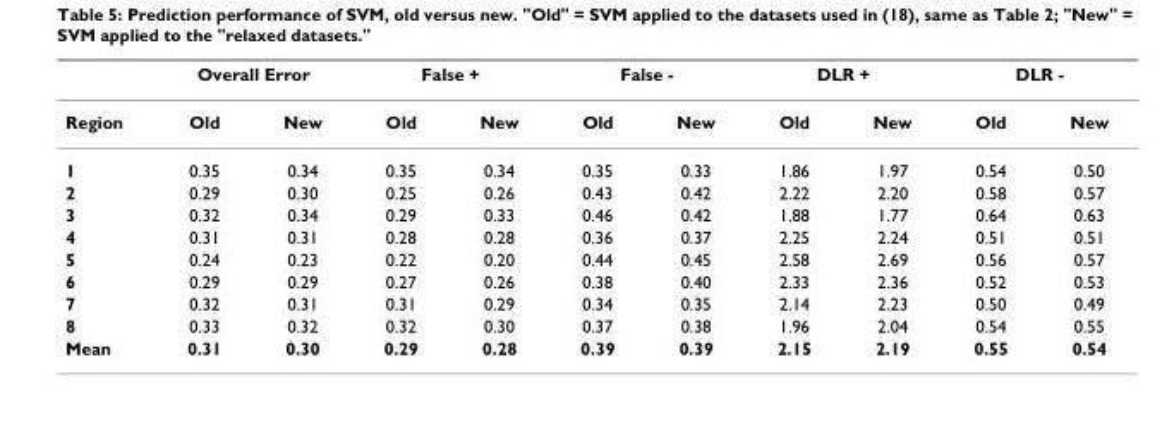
<table><thead><tr><td rowspan="2">Region</td><td colspan="2">Overall Error</td><td colspan="2">False +</td><td colspan="2">False -</td><td colspan="2">DLR +</td><td colspan="2">DLR -</td></tr><tr><td>Old</td><td>New</td><td>Old</td><td>New</td><td>Old</td><td>New</td><td>Old</td><td>New</td><td>Old</td><td>New</td></tr></thead><tbody><tr><td>1</td><td>0.35</td><td>0.34</td><td>0.35</td><td>0.34</td><td>0.35</td><td>0.33</td><td>1.86</td><td>1.97</td><td>0.54</td><td>0.50</td></tr><tr><td>2</td><td>0.29</td><td>0.30</td><td>0.25</td><td>0.26</td><td>0.43</td><td>0.42</td><td>2.22</td><td>2.20</td><td>0.58</td><td>0.57</td></tr><tr><td>3</td><td>0.32</td><td>0.34</td><td>0.29</td><td>0.33</td><td>0.46</td><td>0.42</td><td>1.88</td><td>1.77</td><td>0.64</td><td>0.63</td></tr><tr><td>4</td><td>0.31</td><td>0.31</td><td>0.28</td><td>0.28</td><td>0.36</td><td>0.37</td><td>2.25</td><td>2.24</td><td>0.51</td><td>0.51</td></tr><tr><td>5</td><td>0.24</td><td>0.23</td><td>0.22</td><td>0.20</td><td>0.44</td><td>0.45</td><td>2.58</td><td>2.69</td><td>0.56</td><td>0.57</td></tr><tr><td>6</td><td>0.29</td><td>0.29</td><td>0.27</td><td>0.26</td><td>0.38</td><td>0.40</td><td>2.33</td><td>2.36</td><td>0.52</td><td>0.53</td></tr><tr><td>7</td><td>0.32</td><td>0.31</td><td>0.31</td><td>0.29</td><td>0.34</td><td>0.35</td><td>2.14</td><td>2.23</td><td>0.50</td><td>0.49</td></tr><tr><td>8</td><td>0.33</td><td>0.32</td><td>0.32</td><td>0.30</td><td>0.37</td><td>0.38</td><td>1.96</td><td>2.04</td><td>0.54</td><td>0.55</td></tr><tr><td>Mean</td><td>0.31</td><td>0.30</td><td>0.29</td><td>0.28</td><td>0.39</td><td>0.39</td><td>2.15</td><td>2.19</td><td>0.55</td><td>0.54</td></tr></tbody></table>